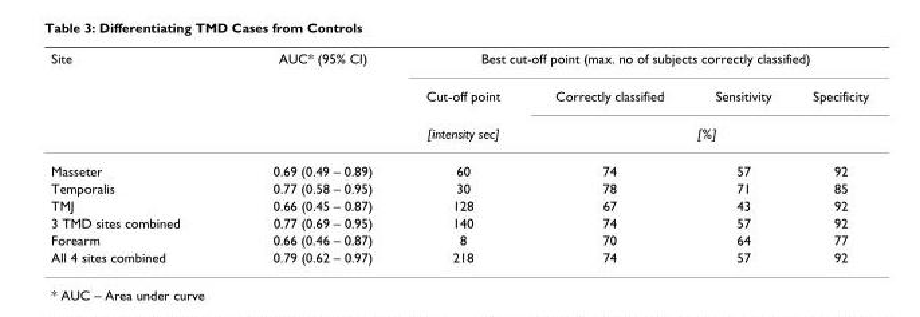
<table><thead><tr><td rowspan="3">Site</td><td rowspan="3">AUC* (95% CI)</td><td colspan="4">Best cut-off point (max. no of subjects correctly classified)</td></tr><tr><td rowspan="2">Cut-off point [intensity sec]</td><td>Correctly classified</td><td>Sensitivity</td><td>Specificity</td></tr><tr><td colspan="3">[%]</td></tr></thead><tbody><tr><td>Masseter</td><td>0.69 (0.49 – 0.89)</td><td>60</td><td>74</td><td>57</td><td>92</td></tr><tr><td>Temporalis</td><td>0.77 (0.58 – 0.95)</td><td>30</td><td>78</td><td>71</td><td>85</td></tr><tr><td>TMJ</td><td>0.66 (0.45 – 0.87)</td><td>128</td><td>67</td><td>43</td><td>92</td></tr><tr><td>3 TMD sites combined</td><td>0.77 (0.69 – 0.95)</td><td>140</td><td>74</td><td>57</td><td>92</td></tr><tr><td>Forearm</td><td>0.66 (0.46 – 0.87)</td><td>8</td><td>70</td><td>64</td><td>77</td></tr><tr><td>All 4 sites combined</td><td>0.79 (0.62 – 0.97)</td><td>218</td><td>74</td><td>57</td><td>92</td></tr></tbody></table>